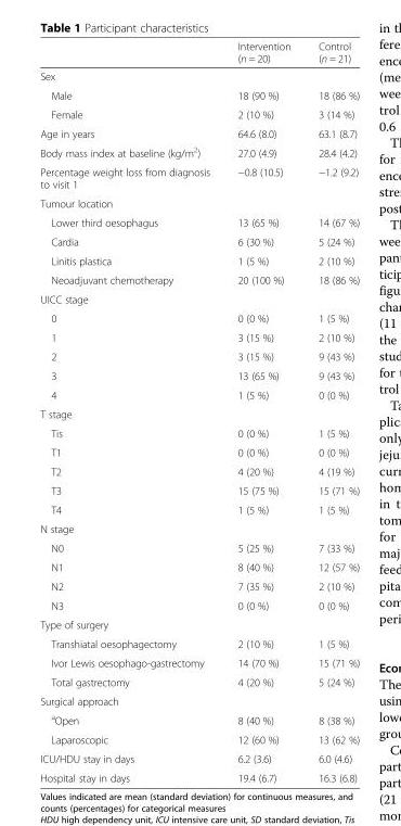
<table><thead><tr><td></td><td>Intervention (n = 20)</td><td>Control (n = 21)</td></tr></thead><tbody><tr><td colspan="3">Sex</td></tr><tr><td>Male</td><td>18 (90 %)</td><td>18 (86 %)</td></tr><tr><td>Female</td><td>2 (10 %)</td><td>3 (14 %)</td></tr><tr><td>Age in years</td><td>64.6 (8.0)</td><td>63.1 (8.7)</td></tr><tr><td>Body mass index at baseline (kg/m<sup>2</sup>)</td><td>27.0 (4.9)</td><td>28.4 (4.2)</td></tr><tr><td>Percentage weight loss from diagnosis to visit 1</td><td>−0.8 (10.5)</td><td>−1.2 (9.2)</td></tr><tr><td colspan="3">Tumour location</td></tr><tr><td>Lower third oesophagus</td><td>13 (65 %)</td><td>14 (67 %)</td></tr><tr><td>Cardia</td><td>6 (30 %)</td><td>5 (24 %)</td></tr><tr><td>Linitis plastica</td><td>1 (5 %)</td><td>2 (10 %)</td></tr><tr><td>Neoadjuvant chemotherapy</td><td>20 (100 %)</td><td>18 (86 %)</td></tr><tr><td colspan="3">UICC stage</td></tr><tr><td>0</td><td>0 (0 %)</td><td>1 (5 %)</td></tr><tr><td>1</td><td>3 (15 %)</td><td>2 (10 %)</td></tr><tr><td>2</td><td>3 (15 %)</td><td>9 (43 %)</td></tr><tr><td>3</td><td>13 (65 %)</td><td>9 (43 %)</td></tr><tr><td>4</td><td>1 (5 %)</td><td>0 (0 %)</td></tr><tr><td colspan="3">T stage</td></tr><tr><td>Tis</td><td>0 (0 %)</td><td>1 (5 %)</td></tr><tr><td>T1</td><td>0 (0 %)</td><td>0 (0 %)</td></tr><tr><td>T2</td><td>4 (20 %)</td><td>4 (19 %)</td></tr><tr><td>T3</td><td>15 (75 %)</td><td>15 (71 %)</td></tr><tr><td>T4</td><td>1 (5 %)</td><td>1 (5 %)</td></tr><tr><td colspan="3">N stage</td></tr><tr><td>N0</td><td>5 (25 %)</td><td>7 (33 %)</td></tr><tr><td>N1</td><td>8 (40 %)</td><td>12 (57 %)</td></tr><tr><td>N2</td><td>7 (35 %)</td><td>2 (10 %)</td></tr><tr><td>N3</td><td>0 (0 %)</td><td>0 (0 %)</td></tr><tr><td colspan="3">Type of surgery</td></tr><tr><td>Transhiatal oesophagectomy</td><td>2 (10 %)</td><td>1 (5 %)</td></tr><tr><td>Ivor Lewis oesophago-gastrectomy</td><td>14 (70 %)</td><td>15 (71 %)</td></tr><tr><td>Total gastrectomy</td><td>4 (20 %)</td><td>5 (24 %)</td></tr><tr><td colspan="3">Surgical approach</td></tr><tr><td><sup>a</sup>Open</td><td>8 (40 %)</td><td>8 (38 %)</td></tr><tr><td>Laparoscopic</td><td>12 (60 %)</td><td>13 (62 %)</td></tr><tr><td>ICU/HDU stay in days</td><td>6.2 (3.6)</td><td>6.0 (4.6)</td></tr><tr><td>Hospital stay in days</td><td>19.4 (6.7)</td><td>16.3 (6.8)</td></tr></tbody></table>